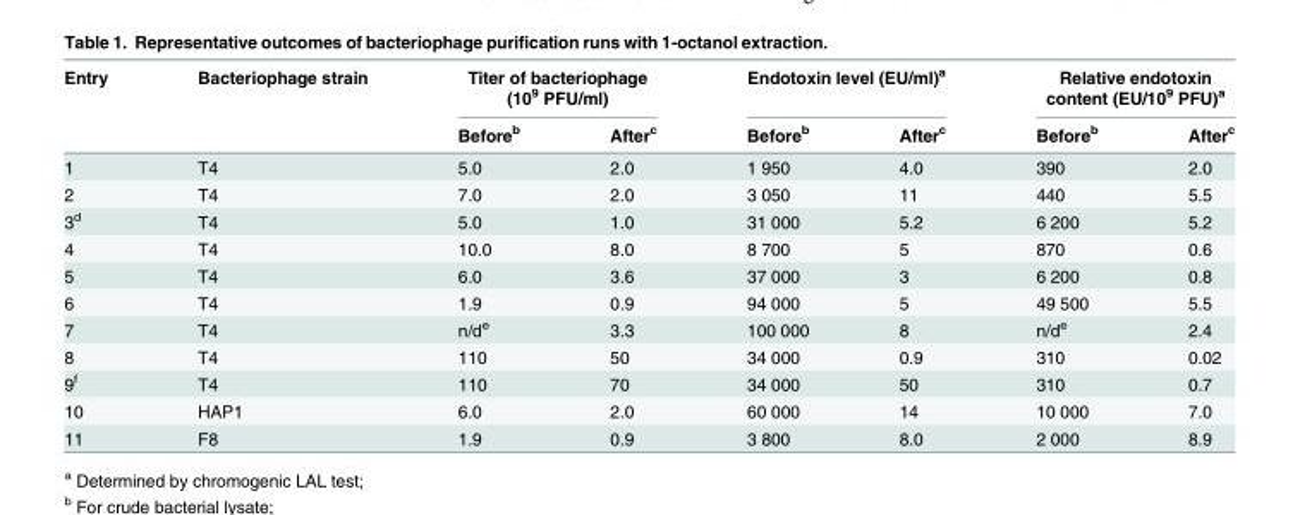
<table><thead><tr><td rowspan="2">Entry</td><td rowspan="2">Bacteriophage strain</td><td colspan="2">Titer of bacteriophage (10<sup>9</sup> PFU/ml)</td><td colspan="2">Endotoxin level (EU/ml)<sup>a</sup></td><td colspan="2">Relative endotoxin content (EU/10<sup>9</sup> PFU)<sup>a</sup></td></tr><tr><td>Before<sup>b</sup></td><td>After<sup>c</sup></td><td>Before<sup>b</sup></td><td>After<sup>c</sup></td><td>Before<sup>b</sup></td><td>After<sup>c</sup></td></tr></thead><tbody><tr><td>1</td><td>T4</td><td>5.0</td><td>2.0</td><td>1 950</td><td>4.0</td><td>390</td><td>2.0</td></tr><tr><td>2</td><td>T4</td><td>7.0</td><td>2.0</td><td>3 050</td><td>11</td><td>440</td><td>5.5</td></tr><tr><td>3<sup>d</sup></td><td>T4</td><td>5.0</td><td>1.0</td><td>31 000</td><td>5.2</td><td>6 200</td><td>5.2</td></tr><tr><td>4</td><td>T4</td><td>10.0</td><td>8.0</td><td>8 700</td><td>5</td><td>870</td><td>0.6</td></tr><tr><td>5</td><td>T4</td><td>6.0</td><td>3.6</td><td>37 000</td><td>3</td><td>6 200</td><td>0.8</td></tr><tr><td>6</td><td>T4</td><td>1.9</td><td>0.9</td><td>94 000</td><td>5</td><td>49 500</td><td>5.5</td></tr><tr><td>7</td><td>T4</td><td>n/d<sup>e</sup></td><td>3.3</td><td>100 000</td><td>8</td><td>n/d<sup>e</sup></td><td>2.4</td></tr><tr><td>8</td><td>T4</td><td>110</td><td>50</td><td>34 000</td><td>0.9</td><td>310</td><td>0.02</td></tr><tr><td>9<sup>f</sup></td><td>T4</td><td>110</td><td>70</td><td>34 000</td><td>50</td><td>310</td><td>0.7</td></tr><tr><td>10</td><td>HAP1</td><td>6.0</td><td>2.0</td><td>60 000</td><td>14</td><td>10 000</td><td>7.0</td></tr><tr><td>11</td><td>F8</td><td>1.9</td><td>0.9</td><td>3 800</td><td>8.0</td><td>2 000</td><td>8.9</td></tr></tbody></table>